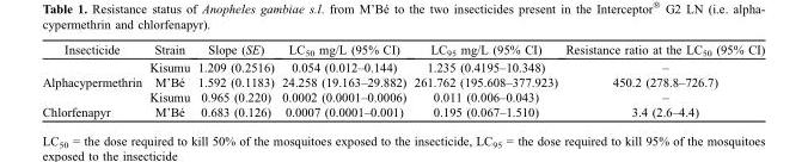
<table><thead><tr><td>Insecticide</td><td>Strain</td><td>Slope (SE)</td><td>LC<sub>50</sub> mg/L (95% CI)</td><td>LC<sub>95</sub> mg/L (95% CI)</td><td>Resistance ratio at the LC<sub>50</sub> (95% CI)</td></tr></thead><tbody><tr><td></td><td>Kisumu</td><td>1.209 (0.2516)</td><td>0.054 (0.012–0.144)</td><td>1.235 (0.4195–10.348)</td><td>–</td></tr><tr><td rowspan="2">Alphacypermethrin</td><td>M’Bé</td><td>1.592 (0.1183)</td><td>24.258 (19.163–29.882)</td><td>261.762 (195.608–377.923)</td><td>450.2 (278.8–726.7)</td></tr><tr><td>Kisumu</td><td>0.965 (0.220)</td><td>0.0002 (0.0001–0.0006)</td><td>0.011 (0.006–0.043)</td><td>–</td></tr><tr><td>Chlorfenapyr</td><td>M’Bé</td><td>0.683 (0.126)</td><td>0.0007 (0.0001–0.001)</td><td>0.195 (0.067–1.510)</td><td>3.4 (2.6–4.4)</td></tr></tbody></table>